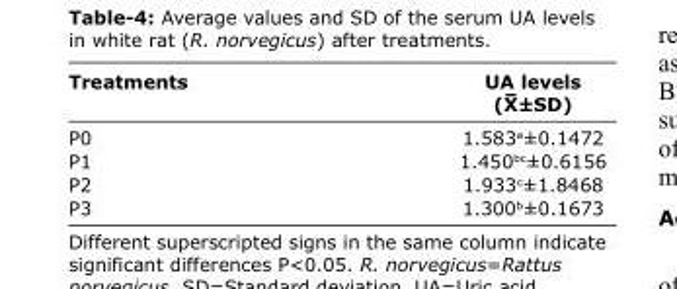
<table><thead><tr><td>Treatments</td><td>UA levels (X–±SD)</td></tr></thead><tbody><tr><td>P0</td><td>1.583<sup>a</sup>±0.1472</td></tr><tr><td>P1</td><td>1.450<sup>bc</sup>±0.6156</td></tr><tr><td>P2</td><td>1.933<sup>c</sup>±1.8468</td></tr><tr><td>P3</td><td>1.300<sup>b</sup>±0.1673</td></tr></tbody></table>